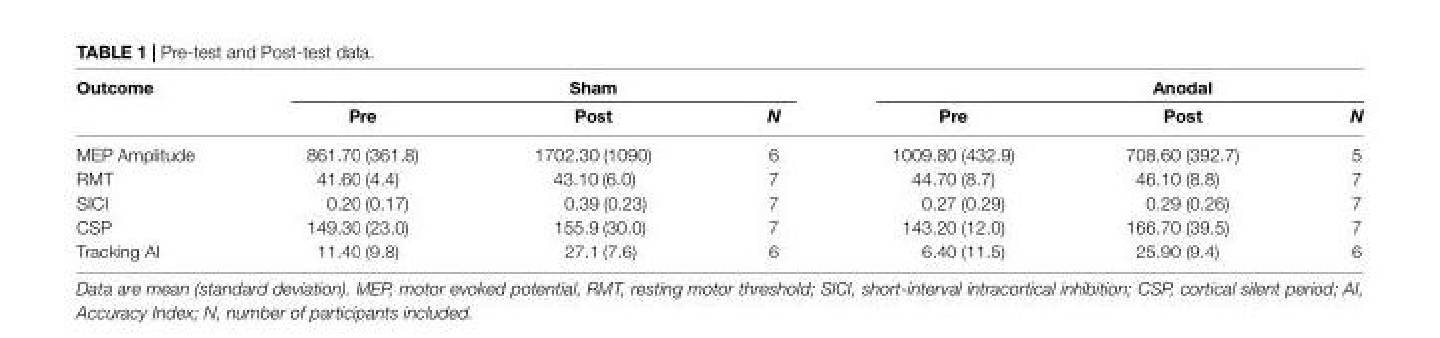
<table><thead><tr><td rowspan="2">Outcome</td><td colspan="3">Sham</td><td colspan="3">Anodal</td></tr><tr><td>Pre</td><td>Post</td><td>N</td><td>Pre</td><td>Post</td><td>N</td></tr></thead><tbody><tr><td>MEP Amplitude</td><td>861.70 (361.8)</td><td>1702.30 (1090)</td><td>6</td><td>1009.80 (432.9)</td><td>708.60 (392.7)</td><td>5</td></tr><tr><td>RMT</td><td>41.60 (4.4)</td><td>43.10 (6.0)</td><td>7</td><td>44.70 (8.7)</td><td>46.10 (8.8)</td><td>7</td></tr><tr><td>SICI</td><td>0.20 (0.17)</td><td>0.39 (0.23)</td><td>7</td><td>0.27 (0.29)</td><td>0.29 (0.26)</td><td>7</td></tr><tr><td>CSP</td><td>149.30 (23.0)</td><td>155.9 (30.0)</td><td>7</td><td>143.20 (12.0)</td><td>166.70 (39.5)</td><td>7</td></tr><tr><td>Tracking AI</td><td>11.40 (9.8)</td><td>27.1 (7.6)</td><td>6</td><td>6.40 (11.5)</td><td>25.90 (9.4)</td><td>6</td></tr></tbody></table>